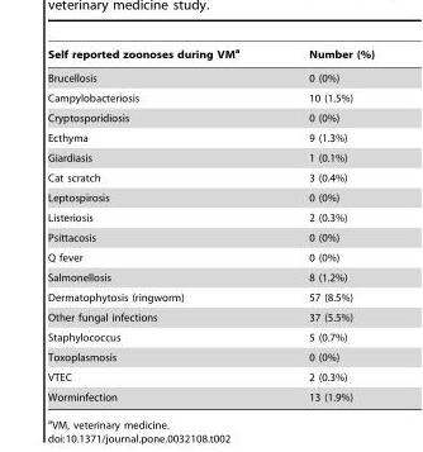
<table><thead><tr><td>Self reported zoonoses during VM<sup>a</sup></td><td>Number (%)</td></tr></thead><tbody><tr><td>Brucellosis</td><td>0 (0%)</td></tr><tr><td>Campylobacteriosis</td><td>10 (1.5%)</td></tr><tr><td>Cryptosporidiosis</td><td>0 (0%)</td></tr><tr><td>Ecthyma</td><td>9 (1.3%)</td></tr><tr><td>Giardiasis</td><td>1 (0.1%)</td></tr><tr><td>Cat scratch</td><td>3 (0.4%)</td></tr><tr><td>Leptospirosis</td><td>0 (0%)</td></tr><tr><td>Listeriosis</td><td>2 (0.3%)</td></tr><tr><td>Psittacosis</td><td>0 (0%)</td></tr><tr><td>Q fever</td><td>0 (0%)</td></tr><tr><td>Salmonellosis</td><td>8 (1.2%)</td></tr><tr><td>Dermatophytosis (ringworm)</td><td>57 (8.5%)</td></tr><tr><td>Other fungal infections</td><td>37 (5.5%)</td></tr><tr><td>Staphylococcus</td><td>5 (0.7%)</td></tr><tr><td>Toxoplasmosis</td><td>0 (0%)</td></tr><tr><td>VTEC</td><td>2 (0.3%)</td></tr><tr><td>Worminfection</td><td>13 (1.9%)</td></tr></tbody></table>